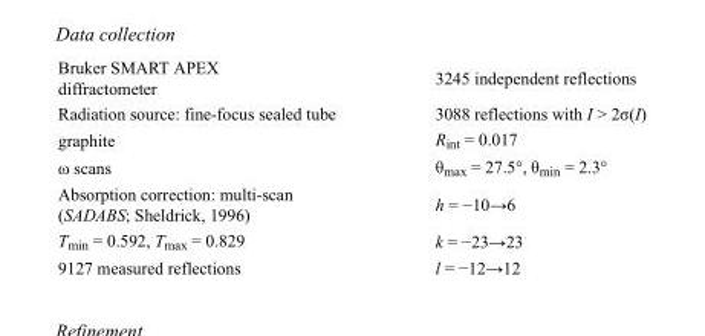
<table><tbody><tr><td>Bruker SMART APEX diffractometer</td><td>3245 independent reflections</td></tr><tr><td>Radiation source: fine-focus sealed tube</td><td>3088 reflections with I &gt; 2σ(I)</td></tr><tr><td>graphite</td><td>R<sub>int</sub> = 0.017</td></tr><tr><td>ω scans</td><td>θ<sub>max</sub> = 27.5°, θ<sub>min</sub> = 2.3°</td></tr><tr><td>Absorption correction: multi-scan (SADABS; Sheldrick, 1996)</td><td>h = −10→6</td></tr><tr><td>T<sub>min</sub> = 0.592, T<sub>max</sub> = 0.829</td><td>k = −23→23</td></tr><tr><td>9127 measured reflections</td><td>l = −12→12</td></tr></tbody></table>